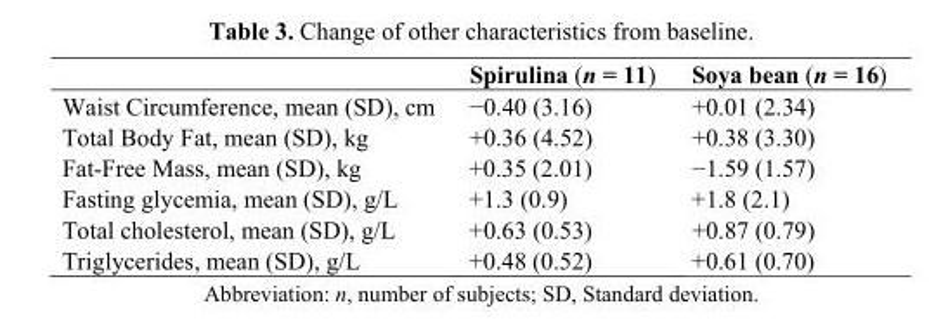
<table><thead><tr><td></td><td>Spirulina (n = 11)</td><td>Soya bean (n = 16)</td></tr></thead><tbody><tr><td>Waist Circumference, mean (SD), cm</td><td>−0.40 (3.16)</td><td>+0.01 (2.34)</td></tr><tr><td>Total Body Fat, mean (SD), kg</td><td>+0.36 (4.52)</td><td>+0.38 (3.30)</td></tr><tr><td>Fat-Free Mass, mean (SD), kg</td><td>+0.35 (2.01)</td><td>−1.59 (1.57)</td></tr><tr><td>Fasting glycemia, mean (SD), g/L</td><td>+1.3 (0.9)</td><td>+1.8 (2.1)</td></tr><tr><td>Total cholesterol, mean (SD), g/L</td><td>+0.63 (0.53)</td><td>+0.87 (0.79)</td></tr><tr><td>Triglycerides, mean (SD), g/L</td><td>+0.48 (0.52)</td><td>+0.61 (0.70)</td></tr></tbody></table>